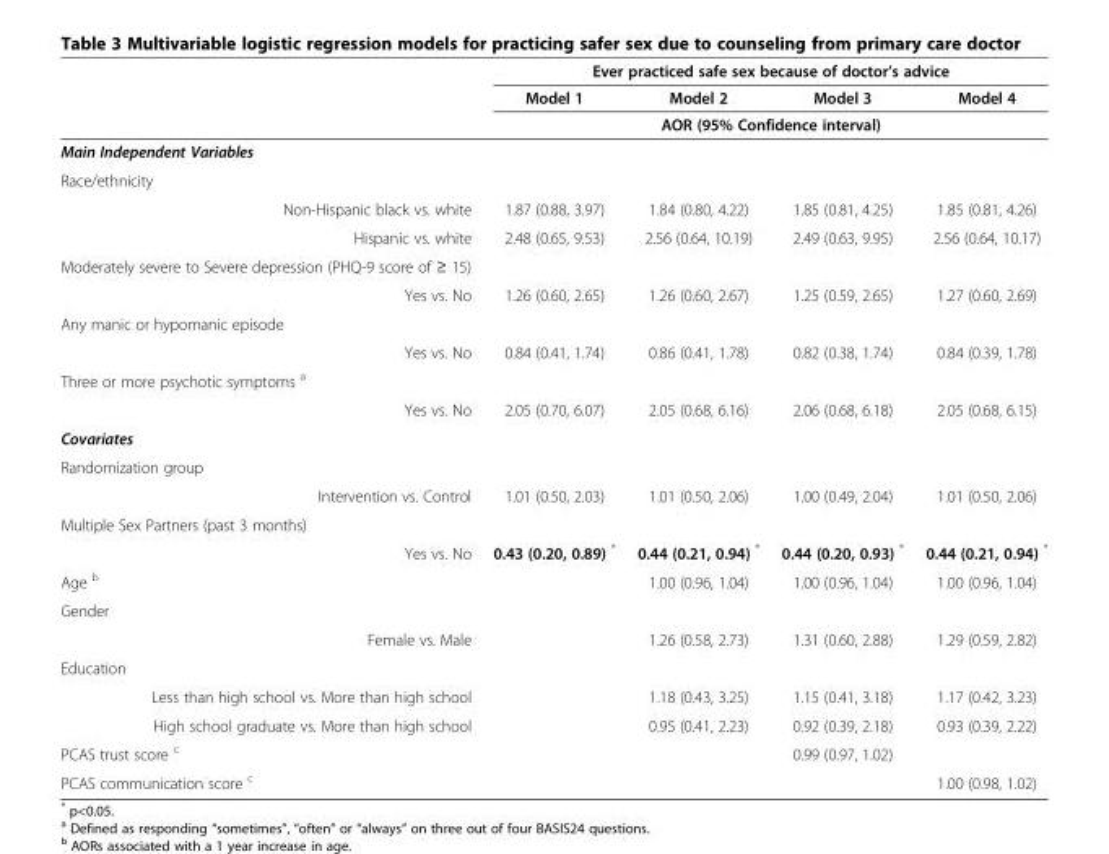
<table><thead><tr><td rowspan="3"></td><td colspan="4">Ever practiced safe sex because of doctor’s advice</td></tr><tr><td>Model 1</td><td>Model 2</td><td>Model 3</td><td>Model 4</td></tr><tr><td colspan="4">AOR (95% Confidence interval)</td></tr></thead><tbody><tr><td colspan="5">Main Independent Variables</td></tr><tr><td colspan="5">Race/ethnicity</td></tr><tr><td>Non-Hispanic black vs. white</td><td>1.87 (0.88, 3.97)</td><td>1.84 (0.80, 4.22)</td><td>1.85 (0.81, 4.25)</td><td>1.85 (0.81, 4.26)</td></tr><tr><td>Hispanic vs. white</td><td>2.48 (0.65, 9.53)</td><td>2.56 (0.64, 10.19)</td><td>2.49 (0.63, 9.95)</td><td>2.56 (0.64, 10.17)</td></tr><tr><td colspan="5">Moderately severe to Severe depression (PHQ-9 score of ≥ 15)</td></tr><tr><td>Yes vs. No</td><td>1.26 (0.60, 2.65)</td><td>1.26 (0.60, 2.67)</td><td>1.25 (0.59, 2.65)</td><td>1.27 (0.60, 2.69)</td></tr><tr><td colspan="5">Any manic or hypomanic episode</td></tr><tr><td>Yes vs. No</td><td>0.84 (0.41, 1.74)</td><td>0.86 (0.41, 1.78)</td><td>0.82 (0.38, 1.74)</td><td>0.84 (0.39, 1.78)</td></tr><tr><td colspan="5">Three or more psychotic symptoms <sup>a</sup></td></tr><tr><td>Yes vs. No</td><td>2.05 (0.70, 6.07)</td><td>2.05 (0.68, 6.16)</td><td>2.06 (0.68, 6.18)</td><td>2.05 (0.68, 6.15)</td></tr><tr><td colspan="5">Covariates</td></tr><tr><td colspan="5">Randomization group</td></tr><tr><td>Intervention vs. Control</td><td>1.01 (0.50, 2.03)</td><td>1.01 (0.50, 2.06)</td><td>1.00 (0.49, 2.04)</td><td>1.01 (0.50, 2.06)</td></tr><tr><td colspan="5">Multiple Sex Partners (past 3 months)</td></tr><tr><td>Yes vs. No</td><td>0.43 (0.20, 0.89) *</td><td>0.44 (0.21, 0.94) *</td><td>0.44 (0.20, 0.93) *</td><td>0.44 (0.21, 0.94) *</td></tr><tr><td>Age <sup>b</sup></td><td></td><td>1.00 (0.96, 1.04)</td><td>1.00 (0.96, 1.04)</td><td>1.00 (0.96, 1.04)</td></tr><tr><td colspan="5">Gender</td></tr><tr><td>Female vs. Male</td><td></td><td>1.26 (0.58, 2.73)</td><td>1.31 (0.60, 2.88)</td><td>1.29 (0.59, 2.82)</td></tr><tr><td colspan="5">Education</td></tr><tr><td>Less than high school vs. More than high school</td><td></td><td>1.18 (0.43, 3.25)</td><td>1.15 (0.41, 3.18)</td><td>1.17 (0.42, 3.23)</td></tr><tr><td>High school graduate vs. More than high school</td><td></td><td>0.95 (0.41, 2.23)</td><td>0.92 (0.39, 2.18)</td><td>0.93 (0.39, 2.22)</td></tr><tr><td>PCAS trust score <sup>c</sup></td><td></td><td></td><td>0.99 (0.97, 1.02)</td><td></td></tr><tr><td>PCAS communication score <sup>c</sup></td><td></td><td></td><td></td><td>1.00 (0.98, 1.02)</td></tr></tbody></table>